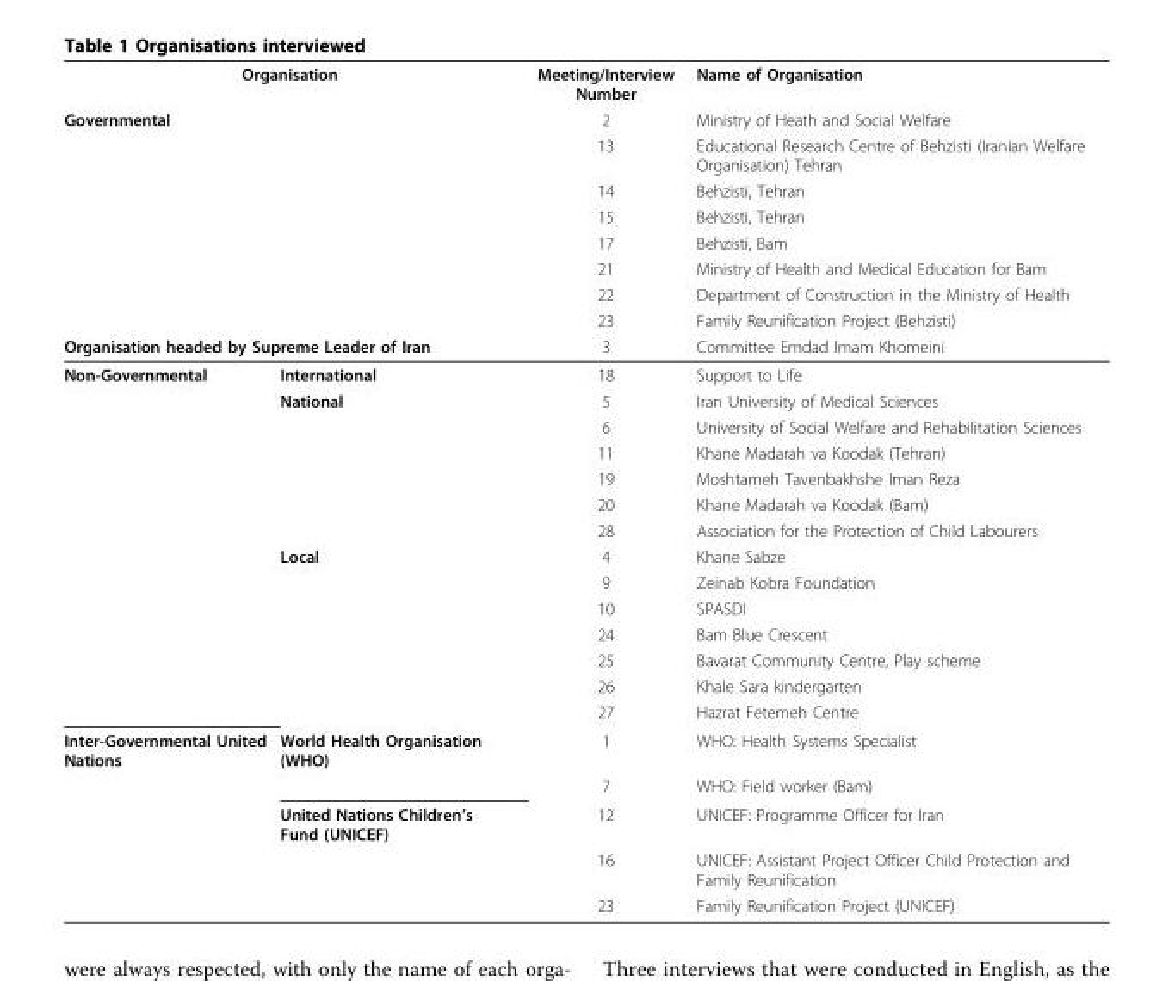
<table><thead><tr><td colspan="2">Organisation</td><td rowspan="10">Meeting/Interview Number 2 13 14 15 17 21 22 23 3</td><td rowspan="10">Name of Organisation Ministry of Heath and Social Welfare Educational Research Centre of Behzisti (Iranian Welfare Organisation) Tehran Behzisti, Tehran Behzisti, Tehran Behzisti, Bam Ministry of Health and Medical Education for Bam Department of Construction in the Ministry of Health Family Reunification Project (Behzisti) Committee Emdad Imam Khomeini</td></tr><tr><td rowspan="8">Governmental</td><td rowspan="8"></td></tr><tr></tr><tr></tr><tr></tr><tr></tr><tr></tr><tr></tr><tr></tr><tr><td colspan="2">Organisation headed by Supreme Leader of Iran</td></tr></thead><tbody><tr><td rowspan="14">Non-Governmental</td><td>International</td><td>18</td><td>Support to Life</td></tr><tr><td>National</td><td>5</td><td>Iran University of Medical Sciences</td></tr><tr><td></td><td>6</td><td>University of Social Welfare and Rehabilitation Sciences</td></tr><tr><td></td><td>11</td><td>Khane Madarah va Koodak (Tehran)</td></tr><tr><td></td><td>19</td><td>Moshtameh Tavenbakhshe Iman Reza</td></tr><tr><td></td><td>20</td><td>Khane Madarah va Koodak (Bam)</td></tr><tr><td></td><td>28</td><td>Association for the Protection of Child Labourers</td></tr><tr><td>Local</td><td>4</td><td>Khane Sabze</td></tr><tr><td></td><td>9</td><td>Zeinab Kobra Foundation</td></tr><tr><td></td><td>10</td><td>SPASDI</td></tr><tr><td></td><td>24</td><td>Bam Blue Crescent</td></tr><tr><td></td><td>25</td><td>Bavarat Community Centre, Play scheme</td></tr><tr><td></td><td>26</td><td>Khale Sara kindergarten</td></tr><tr><td></td><td>27</td><td>Hazrat Fetemeh Centre</td></tr><tr><td rowspan="5">Inter-Governmental United Nations</td><td>World Health Organisation (WHO)</td><td>1</td><td>WHO: Health Systems Specialist</td></tr><tr><td></td><td>7</td><td>WHO: Field worker (Bam)</td></tr><tr><td>United Nations Children’s Fund (UNICEF)</td><td>12</td><td>UNICEF: Programme Officer for Iran</td></tr><tr><td></td><td>16</td><td>UNICEF: Assistant Project Officer Child Protection and Family Reunification</td></tr><tr><td></td><td>23</td><td>Family Reunification Project (UNICEF)</td></tr></tbody></table>